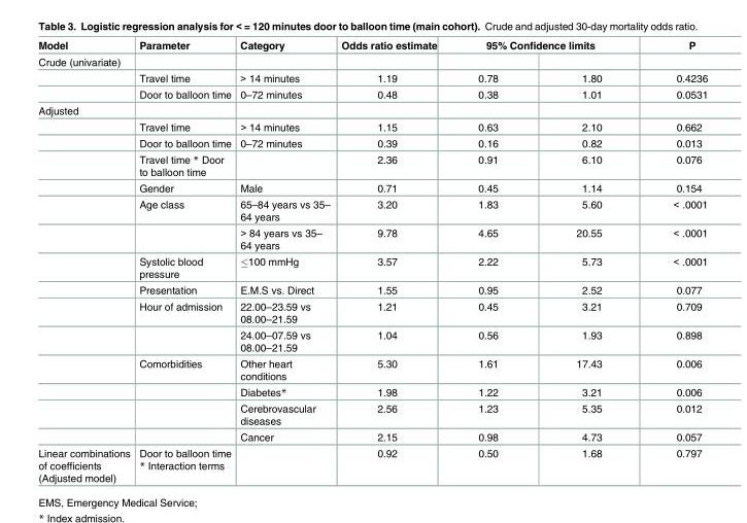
<table><thead><tr><td rowspan="2">Model Crude (univariate)</td><td rowspan="2">Parameter</td><td rowspan="2">Category</td><td rowspan="2">Odds ratio estimate</td><td colspan="2">95% Confidence limits</td><td rowspan="2">P</td></tr><tr><td></td><td></td></tr></thead><tbody><tr><td></td><td>Travel time</td><td>&gt; 14 minutes</td><td>1.19</td><td>0.78</td><td>1.80</td><td>0.4236</td></tr><tr><td></td><td>Door to balloon time</td><td>0–72 minutes</td><td>0.48</td><td>0.38</td><td>1.01</td><td>0.0531</td></tr><tr><td colspan="7">Adjusted</td></tr><tr><td></td><td>Travel time</td><td>&gt; 14 minutes</td><td>1.15</td><td>0.63</td><td>2.10</td><td>0.662</td></tr><tr><td></td><td>Door to balloon time</td><td>0–72 minutes</td><td>0.39</td><td>0.16</td><td>0.82</td><td>0.013</td></tr><tr><td></td><td>Travel time * Door to balloon time</td><td></td><td>2.36</td><td>0.91</td><td>6.10</td><td>0.076</td></tr><tr><td></td><td>Gender</td><td>Male</td><td>0.71</td><td>0.45</td><td>1.14</td><td>0.154</td></tr><tr><td></td><td>Age class</td><td>65–84 years vs 35– 64 years</td><td>3.20</td><td>1.83</td><td>5.60</td><td>&lt; .0001</td></tr><tr><td></td><td></td><td>&gt; 84 years vs 35– 64 years</td><td>9.78</td><td>4.65</td><td>20.55</td><td>&lt; .0001</td></tr><tr><td></td><td>Systolic blood pressure</td><td>≤100 mmHg</td><td>3.57</td><td>2.22</td><td>5.73</td><td>&lt; .0001</td></tr><tr><td></td><td>Presentation</td><td>E.M.S vs. Direct</td><td>1.55</td><td>0.95</td><td>2.52</td><td>0.077</td></tr><tr><td></td><td>Hour of admission</td><td>22.00–23.59 vs 08.00–21.59</td><td>1.21</td><td>0.45</td><td>3.21</td><td>0.709</td></tr><tr><td></td><td></td><td>24.00–07.59 vs 08.00–21.59</td><td>1.04</td><td>0.56</td><td>1.93</td><td>0.898</td></tr><tr><td></td><td>Comorbidities</td><td>Other heart conditions</td><td>5.30</td><td>1.61</td><td>17.43</td><td>0.006</td></tr><tr><td></td><td></td><td>Diabetes*</td><td>1.98</td><td>1.22</td><td>3.21</td><td>0.006</td></tr><tr><td></td><td></td><td>Cerebrovascular diseases</td><td>2.56</td><td>1.23</td><td>5.35</td><td>0.012</td></tr><tr><td></td><td></td><td>Cancer</td><td>2.15</td><td>0.98</td><td>4.73</td><td>0.057</td></tr><tr><td>Linear combinations of coefficients (Adjusted model)</td><td>Door to balloon time * Interaction terms</td><td></td><td>0.92</td><td>0.50</td><td>1.68</td><td>0.797</td></tr></tbody></table>